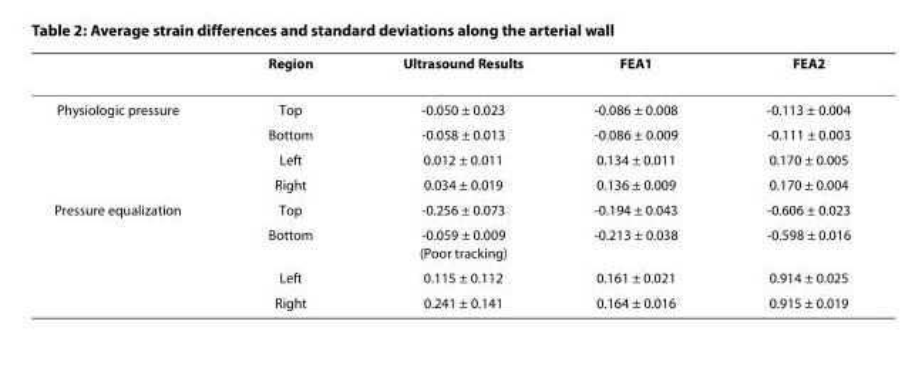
<table><thead><tr><td></td><td>Region</td><td>Ultrasound Results</td><td>FEA1</td><td>FEA2</td></tr></thead><tbody><tr><td rowspan="4">Physiologic pressure</td><td>Top</td><td>-0.050 ± 0.023</td><td>-0.086 ± 0.008</td><td>-0.113 ± 0.004</td></tr><tr><td>Bottom</td><td>-0.058 ± 0.013</td><td>-0.086 ± 0.009</td><td>-0.111 ± 0.003</td></tr><tr><td>Left</td><td>0.012 ± 0.011</td><td>0.134 ± 0.011</td><td>0.170 ± 0.005</td></tr><tr><td>Right</td><td>0.034 ± 0.019</td><td>0.136 ± 0.009</td><td>0.170 ± 0.004</td></tr><tr><td rowspan="4">Pressure equalization</td><td>Top</td><td>-0.256 ± 0.073</td><td>-0.194 ± 0.043</td><td>-0.606 ± 0.023</td></tr><tr><td>Bottom</td><td>-0.059 ± 0.009 (Poor tracking)</td><td>-0.213 ± 0.038</td><td>-0.598 ± 0.016</td></tr><tr><td>Left</td><td>0.115 ± 0.112</td><td>0.161 ± 0.021</td><td>0.914 ± 0.025</td></tr><tr><td>Right</td><td>0.241 ± 0.141</td><td>0.164 ± 0.016</td><td>0.915 ± 0.019</td></tr></tbody></table>